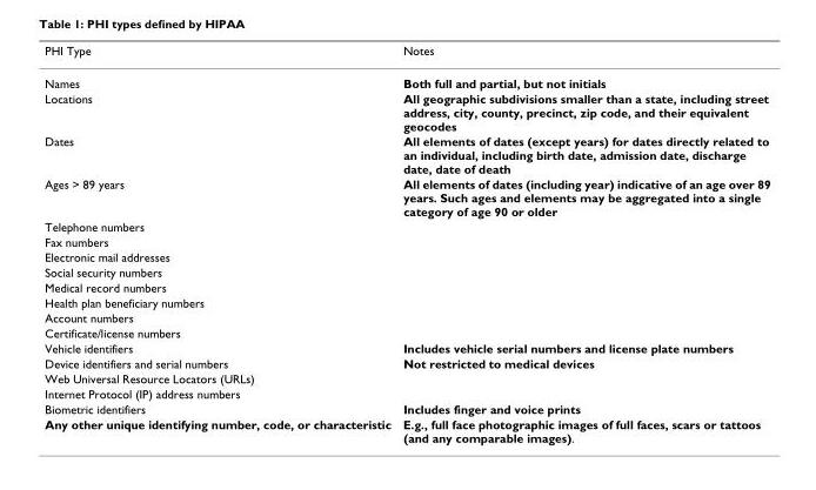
<table><thead><tr><td>PHI Type</td><td>Notes</td></tr></thead><tbody><tr><td>Names</td><td>Both full and partial, but not initials</td></tr><tr><td>Locations</td><td>All geographic subdivisions smaller than a state, including street address, city, county, precinct, zip code, and their equivalent geocodes</td></tr><tr><td>Dates</td><td>All elements of dates (except years) for dates directly related to an individual, including birth date, admission date, discharge date, date of death</td></tr><tr><td>Ages &gt; 89 years</td><td>All elements of dates (including year) indicative of an age over 89 years. Such ages and elements may be aggregated into a single category of age 90 or older</td></tr><tr><td colspan="2">Telephone numbers</td></tr><tr><td colspan="2">Fax numbers</td></tr><tr><td colspan="2">Electronic mail addresses</td></tr><tr><td colspan="2">Social security numbers</td></tr><tr><td colspan="2">Medical record numbers</td></tr><tr><td colspan="2">Health plan beneficiary numbers</td></tr><tr><td colspan="2">Account numbers</td></tr><tr><td colspan="2">Certificate/license numbers</td></tr><tr><td>Vehicle identifiers</td><td>Includes vehicle serial numbers and license plate numbers</td></tr><tr><td>Device identifiers and serial numbers</td><td>Not restricted to medical devices</td></tr><tr><td colspan="2">Web Universal Resource Locators (URLs)</td></tr><tr><td colspan="2">Internet Protocol (IP) address numbers</td></tr><tr><td>Biometric identifiers</td><td>Includes finger and voice prints</td></tr><tr><td>Any other unique identifying number, code, or characteristic</td><td>E.g., full face photographic images of full faces, scars or tattoos (and any comparable images).</td></tr></tbody></table>